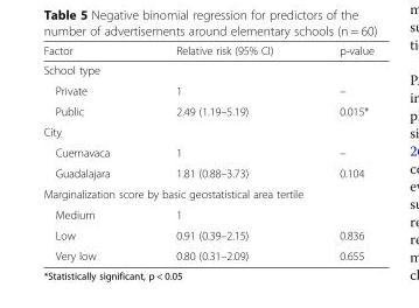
<table><thead><tr><td>Factor</td><td>Relative risk (95% CI)</td><td>p-value</td></tr></thead><tbody><tr><td colspan="3">School type</td></tr><tr><td>Private</td><td>1</td><td>–</td></tr><tr><td>Public</td><td>2.49 (1.19–5.19)</td><td>0.015*</td></tr><tr><td colspan="3">City</td></tr><tr><td>Cuernavaca</td><td>1</td><td>–</td></tr><tr><td>Guadalajara</td><td>1.81 (0.88–3.73)</td><td>0.104</td></tr><tr><td colspan="3">Marginalization score by basic geostatistical area tertile</td></tr><tr><td>Medium</td><td>1</td><td></td></tr><tr><td>Low</td><td>0.91 (0.39–2.15)</td><td>0.836</td></tr><tr><td>Very low</td><td>0.80 (0.31–2.09)</td><td>0.655</td></tr></tbody></table>